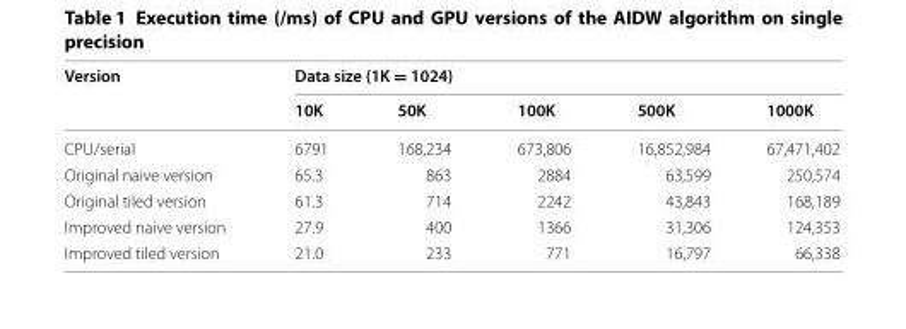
<table><thead><tr><td rowspan="2">Version</td><td colspan="5">Data size (1K = 1024)</td></tr><tr><td>10K</td><td>50K</td><td>100K</td><td>500K</td><td>1000K</td></tr></thead><tbody><tr><td>CPU/serial</td><td>6791</td><td>168,234</td><td>673,806</td><td>16,852,984</td><td>67,471,402</td></tr><tr><td>Original naive version</td><td>65.3</td><td>863</td><td>2884</td><td>63,599</td><td>250,574</td></tr><tr><td>Original tiled version</td><td>61.3</td><td>714</td><td>2242</td><td>43,843</td><td>168,189</td></tr><tr><td>Improved naive version</td><td>27.9</td><td>400</td><td>1366</td><td>31,306</td><td>124,353</td></tr><tr><td>Improved tiled version</td><td>21.0</td><td>233</td><td>771</td><td>16,797</td><td>66,338</td></tr></tbody></table>